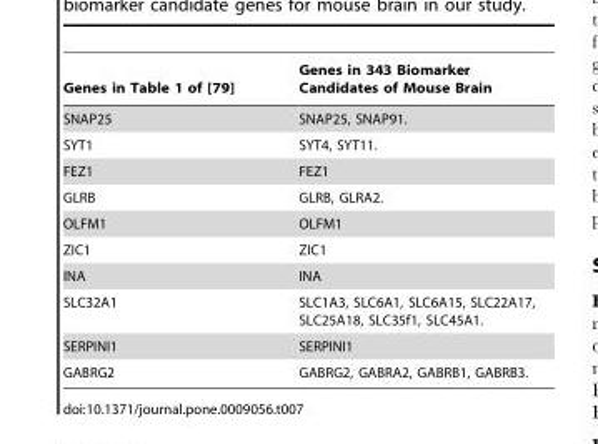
<table><thead><tr><td>Genes in Table 1 of [79]</td><td>Genes in 343 Biomarker Candidates of Mouse Brain</td></tr></thead><tbody><tr><td>SNAP25</td><td>SNAP25, SNAP91.</td></tr><tr><td>SYT1</td><td>SYT4, SYT11.</td></tr><tr><td>FEZ1</td><td>FEZ1</td></tr><tr><td>GLRB</td><td>GLRB, GLRA2.</td></tr><tr><td>OLFM1</td><td>OLFM1</td></tr><tr><td>ZIC1</td><td>ZIC1</td></tr><tr><td>INA</td><td>INA</td></tr><tr><td>SLC32A1</td><td>SLC1A3, SLC6A1, SLC6A15, SLC22A17, SLC25A18, SLC35f1, SLC45A1.</td></tr><tr><td>SERPINI1</td><td>SERPINI1</td></tr><tr><td>GABRG2</td><td>GABRG2, GABRA2, GABRB1, GABRB3.</td></tr></tbody></table>